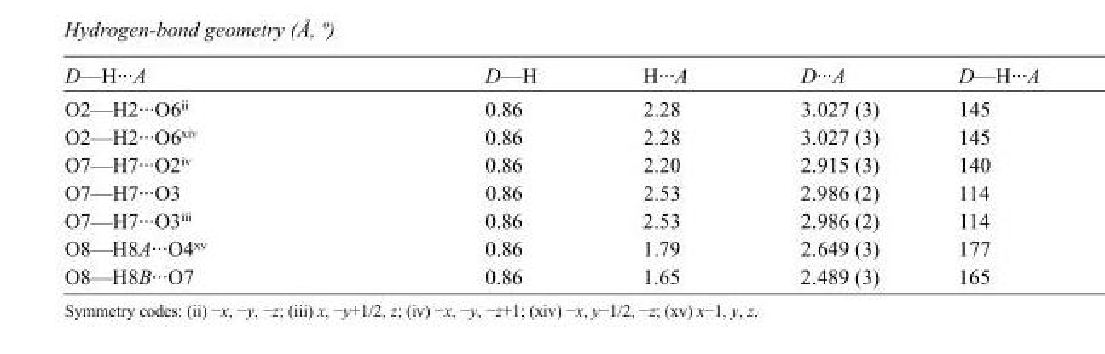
<table><tbody><tr><td>D—H···A</td><td>D—H</td><td>H···A</td><td>D···A</td><td>D—H···A</td></tr><tr><td>O2—H2···O6<sup>ii</sup></td><td>0.86</td><td>2.28</td><td>3.027 (3)</td><td>145</td></tr><tr><td>O2—H2···O6<sup>xiv</sup></td><td>0.86</td><td>2.28</td><td>3.027 (3)</td><td>145</td></tr><tr><td>O7—H7···O2<sup>iv</sup></td><td>0.86</td><td>2.20</td><td>2.915 (3)</td><td>140</td></tr><tr><td>O7—H7···O3</td><td>0.86</td><td>2.53</td><td>2.986 (2)</td><td>114</td></tr><tr><td>O7—H7···O3<sup>iii</sup></td><td>0.86</td><td>2.53</td><td>2.986 (2)</td><td>114</td></tr><tr><td>O8—H8A···O4<sup>xv</sup></td><td>0.86</td><td>1.79</td><td>2.649 (3)</td><td>177</td></tr><tr><td>O8—H8B···O7</td><td>0.86</td><td>1.65</td><td>2.489 (3)</td><td>165</td></tr></tbody></table>